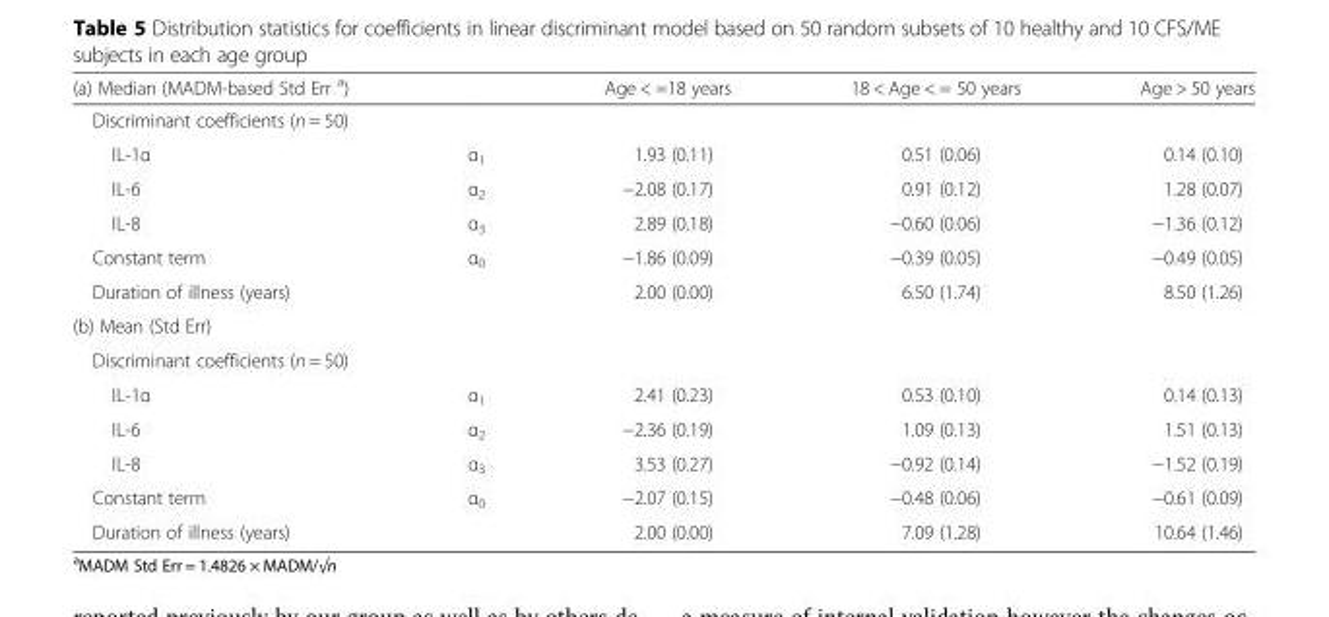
<table><thead><tr><td>(a) Median (MADM-based Std Err <sup>a</sup>)</td><td></td><td>Age &lt; =18 years</td><td>18 &lt; Age &lt; = 50 years</td><td>Age &gt; 50 years</td></tr></thead><tbody><tr><td colspan="5">Discriminant coefficients (n = 50)</td></tr><tr><td>IL-1α</td><td>α<sub>1</sub></td><td>1.93 (0.11)</td><td>0.51 (0.06)</td><td>0.14 (0.10)</td></tr><tr><td>IL-6</td><td>α<sub>2</sub></td><td>−2.08 (0.17)</td><td>0.91 (0.12)</td><td>1.28 (0.07)</td></tr><tr><td>IL-8</td><td>α<sub>3</sub></td><td>2.89 (0.18)</td><td>−0.60 (0.06)</td><td>−1.36 (0.12)</td></tr><tr><td>Constant term</td><td>α<sub>0</sub></td><td>−1.86 (0.09)</td><td>−0.39 (0.05)</td><td>−0.49 (0.05)</td></tr><tr><td>Duration of illness (years)</td><td></td><td>2.00 (0.00)</td><td>6.50 (1.74)</td><td>8.50 (1.26)</td></tr><tr><td colspan="5">(b) Mean (Std Err)</td></tr><tr><td colspan="5">Discriminant coefficients (n = 50)</td></tr><tr><td>IL-1α</td><td>α<sub>1</sub></td><td>2.41 (0.23)</td><td>0.53 (0.10)</td><td>0.14 (0.13)</td></tr><tr><td>IL-6</td><td>α<sub>2</sub></td><td>−2.36 (0.19)</td><td>1.09 (0.13)</td><td>1.51 (0.13)</td></tr><tr><td>IL-8</td><td>α<sub>3</sub></td><td>3.53 (0.27)</td><td>−0.92 (0.14)</td><td>−1.52 (0.19)</td></tr><tr><td>Constant term</td><td>α<sub>0</sub></td><td>−2.07 (0.15)</td><td>−0.48 (0.06)</td><td>−0.61 (0.09)</td></tr><tr><td>Duration of illness (years)</td><td></td><td>2.00 (0.00)</td><td>7.09 (1.28)</td><td>10.64 (1.46)</td></tr></tbody></table>